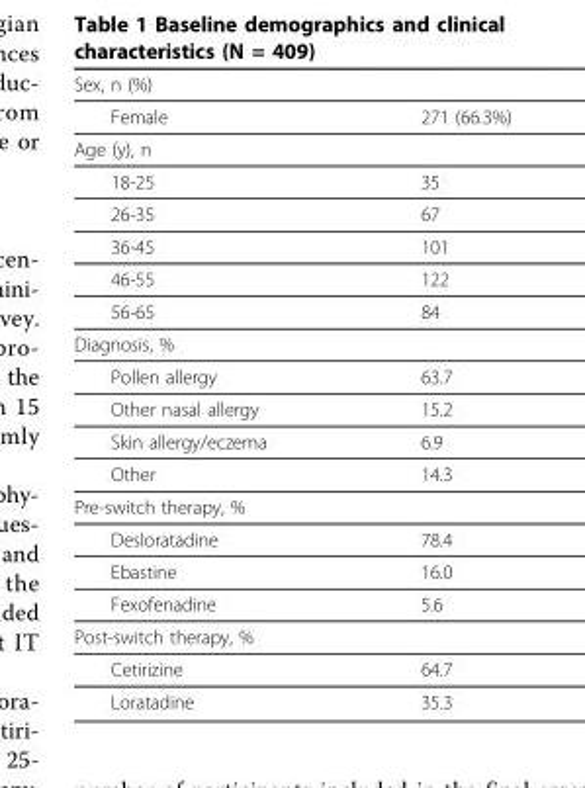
<table><thead><tr><td colspan="2">Sex, n (%)</td></tr><tr><td>Female</td><td>271 (66.3%)</td></tr></thead><tbody><tr><td colspan="2">Age (y), n</td></tr><tr><td>18-25</td><td>35</td></tr><tr><td>26-35</td><td>67</td></tr><tr><td>36-45</td><td>101</td></tr><tr><td>46-55</td><td>122</td></tr><tr><td>56-65</td><td>84</td></tr><tr><td colspan="2">Diagnosis, %</td></tr><tr><td>Pollen allergy</td><td>63.7</td></tr><tr><td>Other nasal allergy</td><td>15.2</td></tr><tr><td>Skin allergy/eczema</td><td>6.9</td></tr><tr><td>Other</td><td>14.3</td></tr><tr><td colspan="2">Pre-switch therapy, %</td></tr><tr><td>Desloratadine</td><td>78.4</td></tr><tr><td>Ebastine</td><td>16.0</td></tr><tr><td>Fexofenadine</td><td>5.6</td></tr><tr><td colspan="2">Post-switch therapy, %</td></tr><tr><td>Cetirizine</td><td>64.7</td></tr><tr><td>Loratadine</td><td>35.3</td></tr></tbody></table>